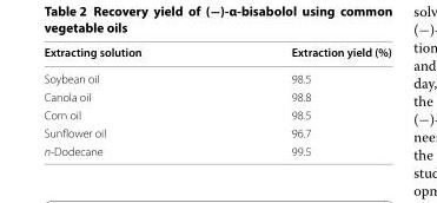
<table><thead><tr><td>Extracting solution</td><td>Extraction yield (%)</td></tr></thead><tbody><tr><td>Soybean oil</td><td>98.5</td></tr><tr><td>Canola oil</td><td>98.8</td></tr><tr><td>Corn oil</td><td>98.5</td></tr><tr><td>Sunflower oil</td><td>96.7</td></tr><tr><td>n‑Dodecane</td><td>99.5</td></tr></tbody></table>